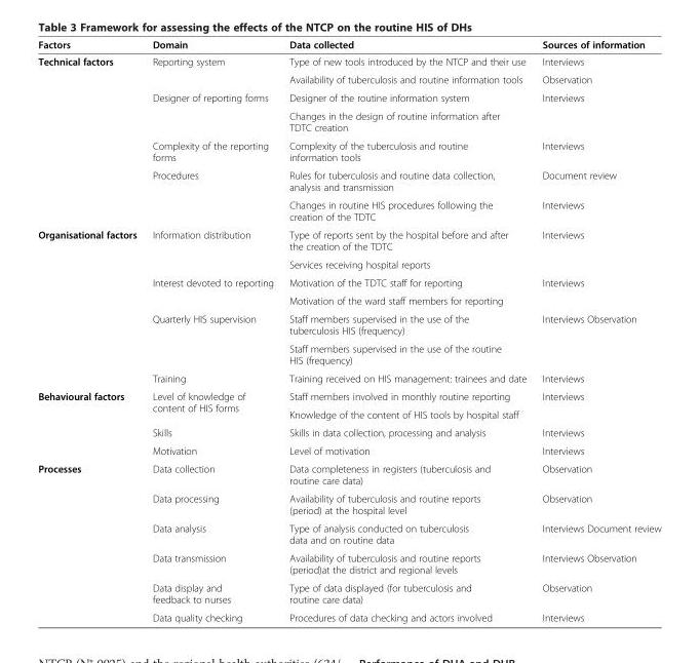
<table><thead><tr><td>Factors</td><td>Domain</td><td>Data collected</td><td>Sources of information</td></tr></thead><tbody><tr><td rowspan="7">Technical factors</td><td rowspan="2">Reporting system</td><td>Type of new tools introduced by the NTCP and their use</td><td>Interviews</td></tr><tr><td>Availability of tuberculosis and routine information tools</td><td>Observation</td></tr><tr><td rowspan="2">Designer of reporting forms</td><td>Designer of the routine information system</td><td rowspan="2">Interviews</td></tr><tr><td>Changes in the design of routine information after TDTC creation</td></tr><tr><td>Complexity of the reporting forms</td><td>Complexity of the tuberculosis and routine information tools</td><td>Interviews</td></tr><tr><td rowspan="2">Procedures</td><td>Rules for tuberculosis and routine data collection, analysis and transmission</td><td>Document review</td></tr><tr><td>Changes in routine HIS procedures following the creation of the TDTC</td><td>Interviews</td></tr><tr><td rowspan="7">Organisational factors</td><td rowspan="2">Information distribution</td><td>Type of reports sent by the hospital before and after the creation of the TDTC</td><td rowspan="2">Interviews</td></tr><tr><td>Services receiving hospital reports</td></tr><tr><td rowspan="2">Interest devoted to reporting</td><td>Motivation of the TDTC staff for reporting</td><td rowspan="2">Interviews</td></tr><tr><td>Motivation of the ward staff members for reporting</td></tr><tr><td rowspan="2">Quarterly HIS supervision</td><td>Staff members supervised in the use of the tuberculosis HIS (frequency)</td><td rowspan="2">Interviews Observation</td></tr><tr><td>Staff members supervised in the use of the routine HIS (frequency)</td></tr><tr><td>Training</td><td>Training received on HIS management: trainees and date</td><td>Interviews</td></tr><tr><td rowspan="4">Behavioural factors</td><td rowspan="2">Level of knowledge of content of HIS forms</td><td>Staff members involved in monthly routine reporting</td><td rowspan="2">Interviews</td></tr><tr><td>Knowledge of the content of HIS tools by hospital staff</td></tr><tr><td>Skills</td><td>Skills in data collection, processing and analysis</td><td>Interviews</td></tr><tr><td>Motivation</td><td>Level of motivation</td><td>Interviews</td></tr><tr><td rowspan="6">Processes</td><td>Data collection</td><td>Data completeness in registers (tuberculosis and routine care data)</td><td>Observation</td></tr><tr><td>Data processing</td><td>Availability of tuberculosis and routine reports (period) at the hospital level</td><td>Observation</td></tr><tr><td>Data analysis</td><td>Type of analysis conducted on tuberculosis data and on routine data</td><td>Interviews Document review</td></tr><tr><td>Data transmission</td><td>Availability of tuberculosis and routine reports (period)at the district and regional levels</td><td>Interviews Observation</td></tr><tr><td>Data display and feedback to nurses</td><td>Type of data displayed (for tuberculosis and routine care data)</td><td>Observation</td></tr><tr><td>Data quality checking</td><td>Procedures of data checking and actors involved</td><td>Interviews</td></tr></tbody></table>